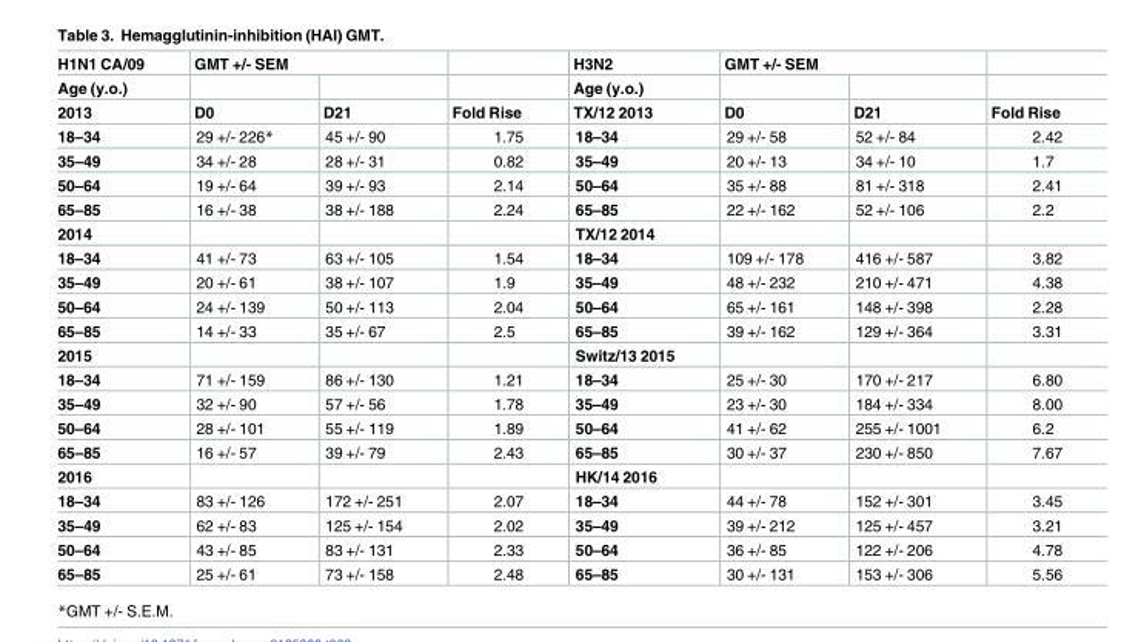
<table><thead><tr><td rowspan="3">H1N1 CA/09 Age (y.o.) 2013</td><td colspan="2">GMT +/- SEM</td><td rowspan="3">Fold Rise</td><td rowspan="3">H3N2 Age (y.o.) TX/12 2013</td><td colspan="2">GMT +/- SEM</td><td rowspan="3">Fold Rise</td></tr><tr><td rowspan="2">D0</td><td rowspan="2">D21</td><td rowspan="2">D0</td><td rowspan="2">D21</td></tr><tr></tr></thead><tbody><tr><td>18–34</td><td>29 +/- 226*</td><td>45 +/- 90</td><td>1.75</td><td>18–34</td><td>29 +/- 58</td><td>52 +/- 84</td><td>2.42</td></tr><tr><td>35–49</td><td>34 +/- 28</td><td>28 +/- 31</td><td>0.82</td><td>35–49</td><td>20 +/- 13</td><td>34 +/- 10</td><td>1.7</td></tr><tr><td>50–64</td><td>19 +/- 64</td><td>39 +/- 93</td><td>2.14</td><td>50–64</td><td>35 +/- 88</td><td>81 +/- 318</td><td>2.41</td></tr><tr><td>65–85</td><td>16 +/- 38</td><td>38 +/- 188</td><td>2.24</td><td>65–85</td><td>22 +/- 162</td><td>52 +/- 106</td><td>2.2</td></tr><tr><td>2014</td><td></td><td></td><td></td><td>TX/12 2014</td><td></td><td></td><td></td></tr><tr><td>18–34</td><td>41 +/- 73</td><td>63 +/- 105</td><td>1.54</td><td>18–34</td><td>109 +/- 178</td><td>416 +/- 587</td><td>3.82</td></tr><tr><td>35–49</td><td>20 +/- 61</td><td>38 +/- 107</td><td>1.9</td><td>35–49</td><td>48 +/- 232</td><td>210 +/- 471</td><td>4.38</td></tr><tr><td>50–64</td><td>24 +/- 139</td><td>50 +/- 113</td><td>2.04</td><td>50–64</td><td>65 +/- 161</td><td>148 +/- 398</td><td>2.28</td></tr><tr><td>65–85</td><td>14 +/- 33</td><td>35 +/- 67</td><td>2.5</td><td>65–85</td><td>39 +/- 162</td><td>129 +/- 364</td><td>3.31</td></tr><tr><td>2015</td><td></td><td></td><td></td><td>Switz/13 2015</td><td></td><td></td><td></td></tr><tr><td>18–34</td><td>71 +/- 159</td><td>86 +/- 130</td><td>1.21</td><td>18–34</td><td>25 +/- 30</td><td>170 +/- 217</td><td>6.80</td></tr><tr><td>35–49</td><td>32 +/- 90</td><td>57 +/- 56</td><td>1.78</td><td>35–49</td><td>23 +/- 30</td><td>184 +/- 334</td><td>8.00</td></tr><tr><td>50–64</td><td>28 +/- 101</td><td>55 +/- 119</td><td>1.89</td><td>50–64</td><td>41 +/- 62</td><td>255 +/- 1001</td><td>6.2</td></tr><tr><td>65–85</td><td>16 +/- 57</td><td>39 +/- 79</td><td>2.43</td><td>65–85</td><td>30 +/- 37</td><td>230 +/- 850</td><td>7.67</td></tr><tr><td>2016</td><td></td><td></td><td></td><td>HK/14 2016</td><td></td><td></td><td></td></tr><tr><td>18–34</td><td>83 +/- 126</td><td>172 +/- 251</td><td>2.07</td><td>18–34</td><td>44 +/- 78</td><td>152 +/- 301</td><td>3.45</td></tr><tr><td>35–49</td><td>62 +/- 83</td><td>125 +/- 154</td><td>2.02</td><td>35–49</td><td>39 +/- 212</td><td>125 +/- 457</td><td>3.21</td></tr><tr><td>50–64</td><td>43 +/- 85</td><td>83 +/- 131</td><td>2.33</td><td>50–64</td><td>36 +/- 85</td><td>122 +/- 206</td><td>4.78</td></tr><tr><td>65–85</td><td>25 +/- 61</td><td>73 +/- 158</td><td>2.48</td><td>65–85</td><td>30 +/- 131</td><td>153 +/- 306</td><td>5.56</td></tr></tbody></table>